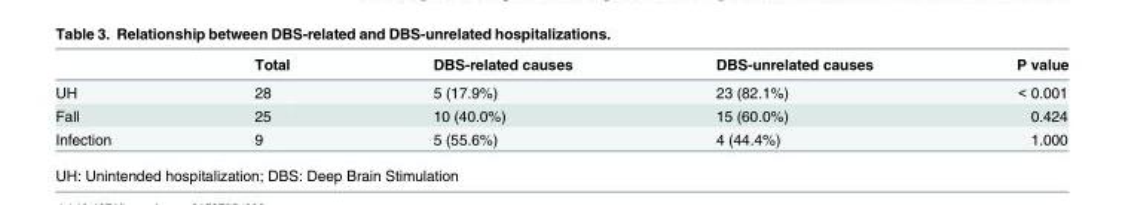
<table><thead><tr><td></td><td>Total</td><td>DBS-related causes</td><td>DBS-unrelated causes</td><td>P value</td></tr></thead><tbody><tr><td>UH</td><td>28</td><td>5 (17.9%)</td><td>23 (82.1%)</td><td>&lt; 0.001</td></tr><tr><td>Fall</td><td>25</td><td>10 (40.0%)</td><td>15 (60.0%)</td><td>0.424</td></tr><tr><td>Infection</td><td>9</td><td>5 (55.6%)</td><td>4 (44.4%)</td><td>1.000</td></tr></tbody></table>